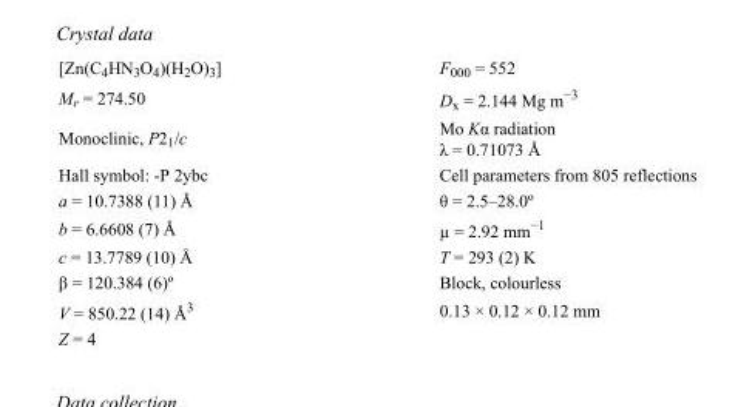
<table><tbody><tr><td>[Zn(C<sub>4</sub>HN<sub>3</sub>O<sub>4</sub>)(H<sub>2</sub>O)<sub>3</sub>]</td><td>F<sub>000</sub> = 552</td></tr><tr><td>M<sub>r</sub> = 274.50</td><td>D<sub>x</sub> = 2.144 Mg m<sup>−3</sup></td></tr><tr><td>Monoclinic, P2<sub>1</sub>/c</td><td>Mo Kα radiation λ = 0.71073 Å</td></tr><tr><td>Hall symbol: -P 2ybc</td><td>Cell parameters from 805 reflections</td></tr><tr><td>a = 10.7388 (11) Å</td><td>θ = 2.5–28.0º</td></tr><tr><td>b = 6.6608 (7) Å</td><td>µ = 2.92 mm<sup>−1</sup></td></tr><tr><td>c = 13.7789 (10) Å</td><td>T = 293 (2) K</td></tr><tr><td>β = 120.384 (6)º</td><td>Block, colourless</td></tr><tr><td>V = 850.22 (14) Å<sup>3</sup></td><td>0.13 × 0.12 × 0.12 mm</td></tr><tr><td>Z = 4</td><td></td></tr></tbody></table>